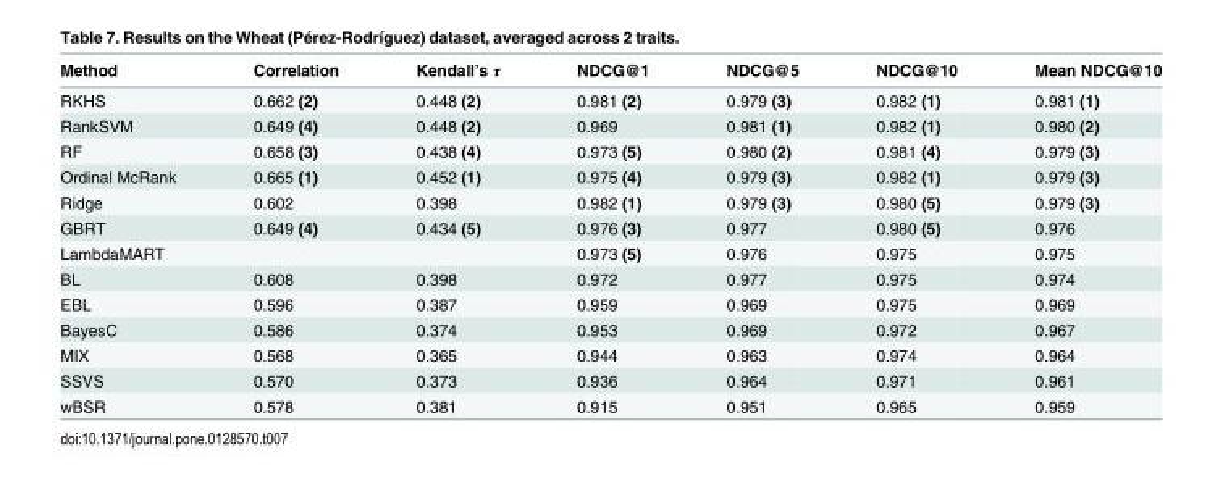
<table><thead><tr><td>Method</td><td>Correlation</td><td>Kendall’s τ</td><td>NDCG@1</td><td>NDCG@5</td><td>NDCG@10</td><td>Mean NDCG@10</td></tr></thead><tbody><tr><td>RKHS</td><td>0.662 (2)</td><td>0.448 (2)</td><td>0.981 (2)</td><td>0.979 (3)</td><td>0.982 (1)</td><td>0.981 (1)</td></tr><tr><td>RankSVM</td><td>0.649 (4)</td><td>0.448 (2)</td><td>0.969</td><td>0.981 (1)</td><td>0.982 (1)</td><td>0.980 (2)</td></tr><tr><td>RF</td><td>0.658 (3)</td><td>0.438 (4)</td><td>0.973 (5)</td><td>0.980 (2)</td><td>0.981 (4)</td><td>0.979 (3)</td></tr><tr><td>Ordinal McRank</td><td>0.665 (1)</td><td>0.452 (1)</td><td>0.975 (4)</td><td>0.979 (3)</td><td>0.982 (1)</td><td>0.979 (3)</td></tr><tr><td>Ridge</td><td>0.602</td><td>0.398</td><td>0.982 (1)</td><td>0.979 (3)</td><td>0.980 (5)</td><td>0.979 (3)</td></tr><tr><td>GBRT</td><td>0.649 (4)</td><td>0.434 (5)</td><td>0.976 (3)</td><td>0.977</td><td>0.980 (5)</td><td>0.976</td></tr><tr><td>LambdaMART</td><td></td><td></td><td>0.973 (5)</td><td>0.976</td><td>0.975</td><td>0.975</td></tr><tr><td>BL</td><td>0.608</td><td>0.398</td><td>0.972</td><td>0.977</td><td>0.975</td><td>0.974</td></tr><tr><td>EBL</td><td>0.596</td><td>0.387</td><td>0.959</td><td>0.969</td><td>0.975</td><td>0.969</td></tr><tr><td>BayesC</td><td>0.586</td><td>0.374</td><td>0.953</td><td>0.969</td><td>0.972</td><td>0.967</td></tr><tr><td>MIX</td><td>0.568</td><td>0.365</td><td>0.944</td><td>0.963</td><td>0.974</td><td>0.964</td></tr><tr><td>SSVS</td><td>0.570</td><td>0.373</td><td>0.936</td><td>0.964</td><td>0.971</td><td>0.961</td></tr><tr><td>wBSR</td><td>0.578</td><td>0.381</td><td>0.915</td><td>0.951</td><td>0.965</td><td>0.959</td></tr></tbody></table>